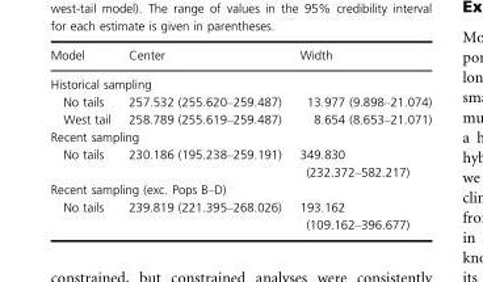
<table><thead><tr><td>Model</td><td>Center</td><td>Width</td></tr></thead><tbody><tr><td colspan="3">Historical sampling</td></tr><tr><td>No tails</td><td>257.532 (255.620–259.487)</td><td>13.977 (9.898–21.074)</td></tr><tr><td>West tail</td><td>258.789 (255.619–259.487)</td><td>8.654 (8.653–21.071)</td></tr><tr><td colspan="3">Recent sampling</td></tr><tr><td>No tails</td><td>230.186 (195.238–259.191)</td><td>349.830 (232.372–582.217)</td></tr><tr><td colspan="3">Recent sampling (exc. Pops B–D)</td></tr><tr><td>No tails</td><td>239.819 (221.395–268.026)</td><td>193.162 (109.162–396.677)</td></tr></tbody></table>